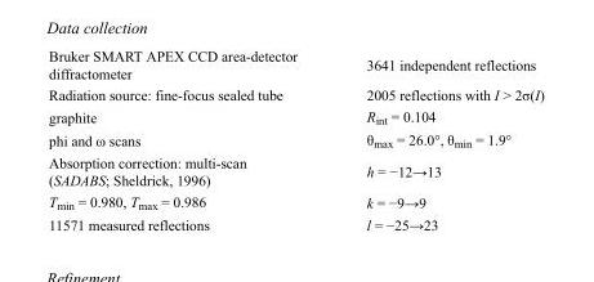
<table><tbody><tr><td>Bruker SMART APEX CCD area-detector diffractometer</td><td>3641 independent reflections</td></tr><tr><td>Radiation source: fine-focus sealed tube</td><td>2005 reflections with I &gt; 2σ(I)</td></tr><tr><td>graphite</td><td>R<sub>int</sub> = 0.104</td></tr><tr><td>phi and ω scans</td><td>θ<sub>max</sub> = 26.0°, θ<sub>min</sub> = 1.9°</td></tr><tr><td>Absorption correction: multi-scan (SADABS; Sheldrick, 1996)</td><td>h = −12→13</td></tr><tr><td>T<sub>min</sub> = 0.980, T<sub>max</sub> = 0.986</td><td>k = −9→9</td></tr><tr><td>11571 measured reflections</td><td>l = −25→23</td></tr></tbody></table>